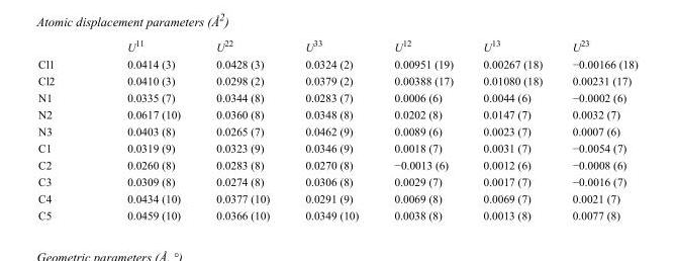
<table><thead><tr><td></td><td>U<sup>11</sup></td><td>U<sup>22</sup></td><td>U<sup>33</sup></td><td>U<sup>12</sup></td><td>U<sup>13</sup></td><td>U<sup>23</sup></td></tr></thead><tbody><tr><td>Cl1</td><td>0.0414 (3)</td><td>0.0428 (3)</td><td>0.0324 (2)</td><td>0.00951 (19)</td><td>0.00267 (18)</td><td>−0.00166 (18)</td></tr><tr><td>Cl2</td><td>0.0410 (3)</td><td>0.0298 (2)</td><td>0.0379 (2)</td><td>0.00388 (17)</td><td>0.01080 (18)</td><td>0.00231 (17)</td></tr><tr><td>N1</td><td>0.0335 (7)</td><td>0.0344 (8)</td><td>0.0283 (7)</td><td>0.0006 (6)</td><td>0.0044 (6)</td><td>−0.0002 (6)</td></tr><tr><td>N2</td><td>0.0617 (10)</td><td>0.0360 (8)</td><td>0.0348 (8)</td><td>0.0202 (8)</td><td>0.0147 (7)</td><td>0.0032 (7)</td></tr><tr><td>N3</td><td>0.0403 (8)</td><td>0.0265 (7)</td><td>0.0462 (9)</td><td>0.0089 (6)</td><td>0.0023 (7)</td><td>0.0007 (6)</td></tr><tr><td>C1</td><td>0.0319 (9)</td><td>0.0323 (9)</td><td>0.0346 (9)</td><td>0.0018 (7)</td><td>0.0031 (7)</td><td>−0.0054 (7)</td></tr><tr><td>C2</td><td>0.0260 (8)</td><td>0.0283 (8)</td><td>0.0270 (8)</td><td>−0.0013 (6)</td><td>0.0012 (6)</td><td>−0.0008 (6)</td></tr><tr><td>C3</td><td>0.0309 (8)</td><td>0.0274 (8)</td><td>0.0306 (8)</td><td>0.0029 (7)</td><td>0.0017 (7)</td><td>−0.0016 (7)</td></tr><tr><td>C4</td><td>0.0434 (10)</td><td>0.0377 (10)</td><td>0.0291 (9)</td><td>0.0069 (8)</td><td>0.0069 (7)</td><td>0.0021 (7)</td></tr><tr><td>C5</td><td>0.0459 (10)</td><td>0.0366 (10)</td><td>0.0349 (10)</td><td>0.0038 (8)</td><td>0.0013 (8)</td><td>0.0077 (8)</td></tr></tbody></table>